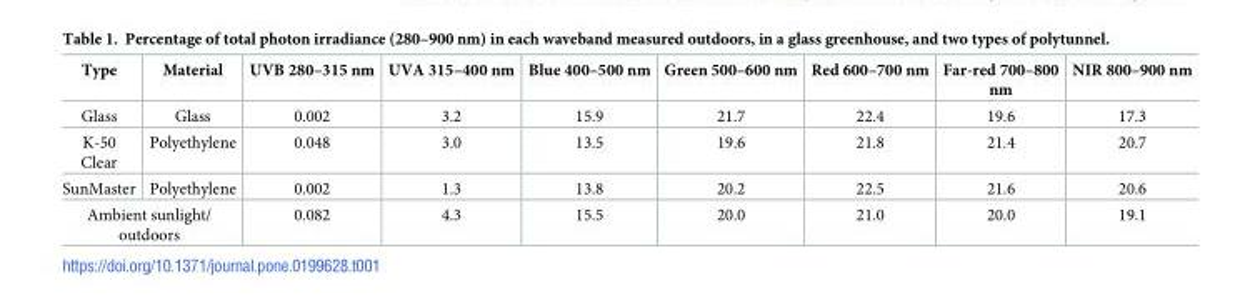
<table><thead><tr><td>Type</td><td>Material</td><td>UVB 280–315 nm</td><td>UVA 315–400 nm</td><td>Blue 400–500 nm</td><td>Green 500–600 nm</td><td>Red 600–700 nm</td><td>Far-red 700–800 nm</td><td>NIR 800–900 nm</td></tr></thead><tbody><tr><td>Glass</td><td>Glass</td><td>0.002</td><td>3.2</td><td>15.9</td><td>21.7</td><td>22.4</td><td>19.6</td><td>17.3</td></tr><tr><td>K-50 Clear</td><td>Polyethylene</td><td>0.048</td><td>3.0</td><td>13.5</td><td>19.6</td><td>21.8</td><td>21.4</td><td>20.7</td></tr><tr><td>SunMaster</td><td>Polyethylene</td><td>0.002</td><td>1.3</td><td>13.8</td><td>20.2</td><td>22.5</td><td>21.6</td><td>20.6</td></tr><tr><td colspan="2">Ambient sunlight/ outdoors</td><td>0.082</td><td>4.3</td><td>15.5</td><td>20.0</td><td>21.0</td><td>20.0</td><td>19.1</td></tr></tbody></table>